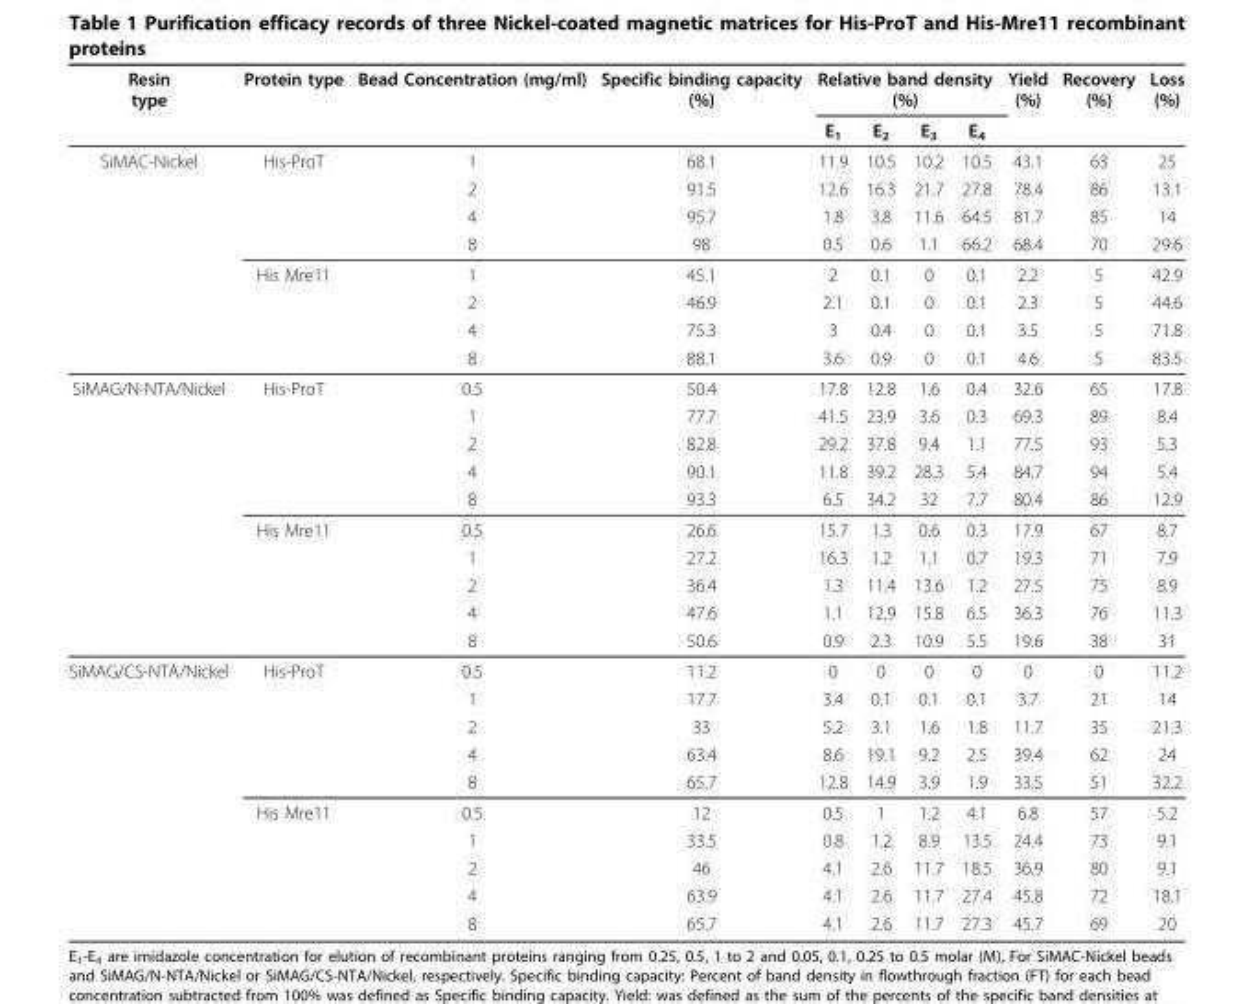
<table><thead><tr><td rowspan="2">Resin type</td><td rowspan="2">Protein type</td><td rowspan="2">Bead Concentration (mg/ml)</td><td rowspan="2">Specific binding capacity (%)</td><td colspan="4">Relative band density (%)</td><td rowspan="2">Yield (%)</td><td rowspan="2">Recovery (%)</td><td rowspan="2">Loss (%)</td></tr><tr><td>E<sub>1</sub></td><td>E<sub>2</sub></td><td>E<sub>3</sub></td><td>E<sub>4</sub></td></tr></thead><tbody><tr><td rowspan="8">SiMAC-Nickel</td><td>His-ProT</td><td>1</td><td>68.1</td><td>11.9</td><td>10.5</td><td>10.2</td><td>10.5</td><td>43.1</td><td>63</td><td>25</td></tr><tr><td></td><td>2</td><td>91.5</td><td>12.6</td><td>16.3</td><td>21.7</td><td>27.8</td><td>78.4</td><td>86</td><td>13.1</td></tr><tr><td></td><td>4</td><td>95.7</td><td>1.8</td><td>3.8</td><td>11.6</td><td>64.5</td><td>81.7</td><td>85</td><td>14</td></tr><tr><td></td><td>8</td><td>98</td><td>0.5</td><td>0.6</td><td>1.1</td><td>66.2</td><td>68.4</td><td>70</td><td>29.6</td></tr><tr><td>His Mre11</td><td>1</td><td>45.1</td><td>2</td><td>0.1</td><td>0</td><td>0.1</td><td>2.2</td><td>5</td><td>42.9</td></tr><tr><td></td><td>2</td><td>46.9</td><td>2.1</td><td>0.1</td><td>0</td><td>0.1</td><td>2.3</td><td>5</td><td>44.6</td></tr><tr><td></td><td>4</td><td>75.3</td><td>3</td><td>0.4</td><td>0</td><td>0.1</td><td>3.5</td><td>5</td><td>71.8</td></tr><tr><td></td><td>8</td><td>88.1</td><td>3.6</td><td>0.9</td><td>0</td><td>0.1</td><td>4.6</td><td>5</td><td>83.5</td></tr><tr><td rowspan="10">SiMAG/N-NTA/Nickel</td><td>His-ProT</td><td>0.5</td><td>50.4</td><td>17.8</td><td>12.8</td><td>1.6</td><td>0.4</td><td>32.6</td><td>65</td><td>17.8</td></tr><tr><td></td><td>1</td><td>77.7</td><td>41.5</td><td>23.9</td><td>3.6</td><td>0.3</td><td>69.3</td><td>89</td><td>8.4</td></tr><tr><td></td><td>2</td><td>82.8</td><td>29.2</td><td>37.8</td><td>9.4</td><td>1.1</td><td>77.5</td><td>93</td><td>5.3</td></tr><tr><td></td><td>4</td><td>90.1</td><td>11.8</td><td>39.2</td><td>28.3</td><td>5.4</td><td>84.7</td><td>94</td><td>5.4</td></tr><tr><td></td><td>8</td><td>93.3</td><td>6.5</td><td>34.2</td><td>32</td><td>7.7</td><td>80.4</td><td>86</td><td>12.9</td></tr><tr><td>His Mre11</td><td>0.5</td><td>26.6</td><td>15.7</td><td>1.3</td><td>0.6</td><td>0.3</td><td>17.9</td><td>67</td><td>8.7</td></tr><tr><td></td><td>1</td><td>27.2</td><td>16.3</td><td>1.2</td><td>1.1</td><td>0.7</td><td>19.3</td><td>71</td><td>7.9</td></tr><tr><td></td><td>2</td><td>36.4</td><td>1.3</td><td>11.4</td><td>13.6</td><td>1.2</td><td>27.5</td><td>75</td><td>8.9</td></tr><tr><td></td><td>4</td><td>47.6</td><td>1.1</td><td>12.9</td><td>15.8</td><td>6.5</td><td>36.3</td><td>76</td><td>11.3</td></tr><tr><td></td><td>8</td><td>50.6</td><td>0.9</td><td>2.3</td><td>10.9</td><td>5.5</td><td>19.6</td><td>38</td><td>31</td></tr><tr><td rowspan="10">SiMAG/CS-NTA/Nickel</td><td>His-ProT</td><td>0.5</td><td>11.2</td><td>0</td><td>0</td><td>0</td><td>0</td><td>0</td><td>0</td><td>11.2</td></tr><tr><td></td><td>1</td><td>17.7</td><td>3.4</td><td>0.1</td><td>0.1</td><td>0.1</td><td>3.7</td><td>21</td><td>14</td></tr><tr><td></td><td>2</td><td>33</td><td>5.2</td><td>3.1</td><td>1.6</td><td>1.8</td><td>11.7</td><td>35</td><td>21.3</td></tr><tr><td></td><td>4</td><td>63.4</td><td>8.6</td><td>19.1</td><td>9.2</td><td>2.5</td><td>39.4</td><td>62</td><td>24</td></tr><tr><td></td><td>8</td><td>65.7</td><td>12.8</td><td>14.9</td><td>3.9</td><td>1.9</td><td>33.5</td><td>51</td><td>32.2</td></tr><tr><td>His Mre11</td><td>0.5</td><td>12</td><td>0.5</td><td>1</td><td>1.2</td><td>4.1</td><td>6.8</td><td>57</td><td>5.2</td></tr><tr><td></td><td>1</td><td>33.5</td><td>0.8</td><td>1.2</td><td>8.9</td><td>13.5</td><td>24.4</td><td>73</td><td>9.1</td></tr><tr><td></td><td>2</td><td>46</td><td>4.1</td><td>2.6</td><td>11.7</td><td>18.5</td><td>36.9</td><td>80</td><td>9.1</td></tr><tr><td></td><td>4</td><td>63.9</td><td>4.1</td><td>2.6</td><td>11.7</td><td>27.4</td><td>45.8</td><td>72</td><td>18.1</td></tr><tr><td></td><td>8</td><td>65.7</td><td>4.1</td><td>2.6</td><td>11.7</td><td>27.3</td><td>45.7</td><td>69</td><td>20</td></tr></tbody></table>